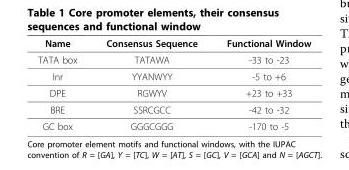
<table><thead><tr><td>Name</td><td>Consensus Sequence</td><td>Functional Window</td></tr></thead><tbody><tr><td>TATA box</td><td>TATAWA</td><td>-33 to -23</td></tr><tr><td>Inr</td><td>YYANWYY</td><td>-5 to +6</td></tr><tr><td>DPE</td><td>RGWYV</td><td>+23 to +33</td></tr><tr><td>BRE</td><td>SSRCGCC</td><td>-42 to -32</td></tr><tr><td>GC box</td><td>GGGCGGG</td><td>-170 to -5</td></tr></tbody></table>